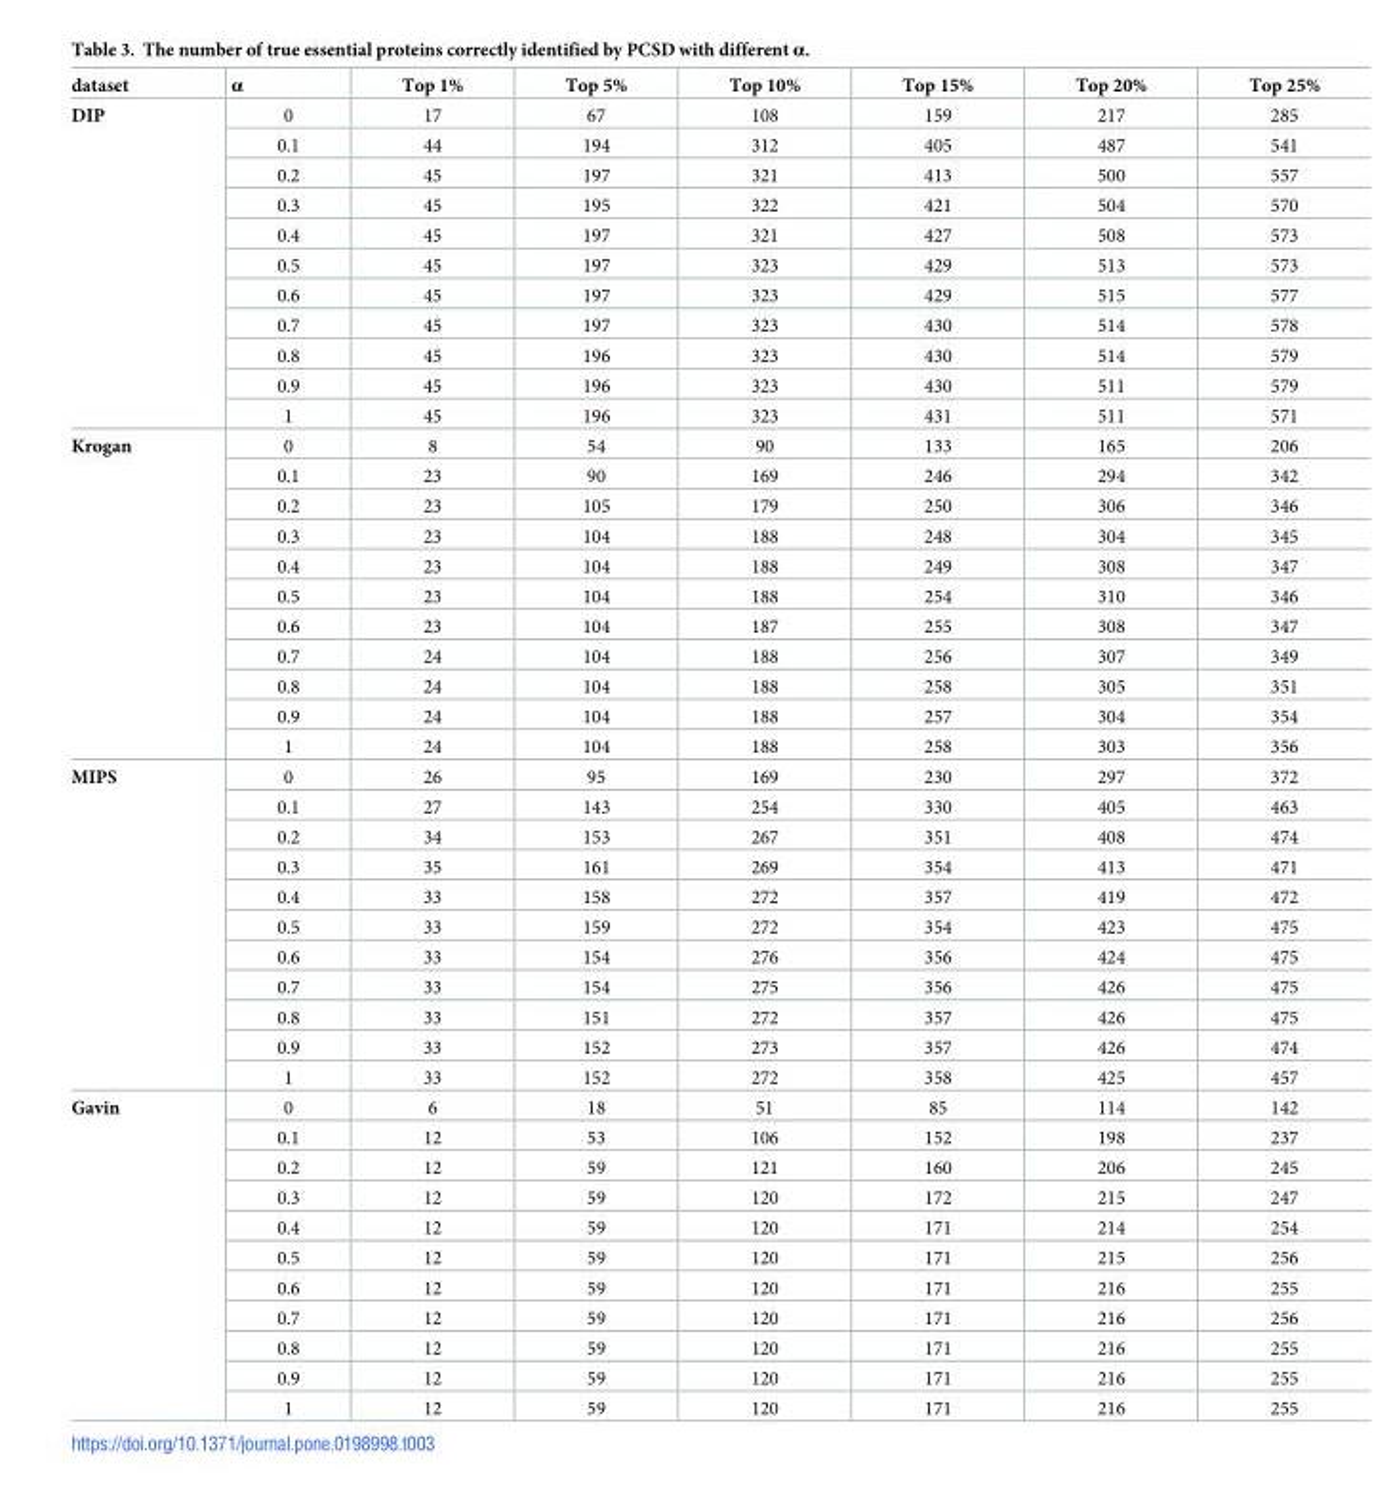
<table><thead><tr><td>dataset</td><td>α</td><td>Top 1%</td><td>Top 5%</td><td>Top 10%</td><td>Top 15%</td><td>Top 20%</td><td>Top 25%</td></tr></thead><tbody><tr><td rowspan="11">DIP</td><td>0</td><td>17</td><td>67</td><td>108</td><td>159</td><td>217</td><td>285</td></tr><tr><td>0.1</td><td>44</td><td>194</td><td>312</td><td>405</td><td>487</td><td>541</td></tr><tr><td>0.2</td><td>45</td><td>197</td><td>321</td><td>413</td><td>500</td><td>557</td></tr><tr><td>0.3</td><td>45</td><td>195</td><td>322</td><td>421</td><td>504</td><td>570</td></tr><tr><td>0.4</td><td>45</td><td>197</td><td>321</td><td>427</td><td>508</td><td>573</td></tr><tr><td>0.5</td><td>45</td><td>197</td><td>323</td><td>429</td><td>513</td><td>573</td></tr><tr><td>0.6</td><td>45</td><td>197</td><td>323</td><td>429</td><td>515</td><td>577</td></tr><tr><td>0.7</td><td>45</td><td>197</td><td>323</td><td>430</td><td>514</td><td>578</td></tr><tr><td>0.8</td><td>45</td><td>196</td><td>323</td><td>430</td><td>514</td><td>579</td></tr><tr><td>0.9</td><td>45</td><td>196</td><td>323</td><td>430</td><td>511</td><td>579</td></tr><tr><td>1</td><td>45</td><td>196</td><td>323</td><td>431</td><td>511</td><td>571</td></tr><tr><td rowspan="11">Krogan</td><td>0</td><td>8</td><td>54</td><td>90</td><td>133</td><td>165</td><td>206</td></tr><tr><td>0.1</td><td>23</td><td>90</td><td>169</td><td>246</td><td>294</td><td>342</td></tr><tr><td>0.2</td><td>23</td><td>105</td><td>179</td><td>250</td><td>306</td><td>346</td></tr><tr><td>0.3</td><td>23</td><td>104</td><td>188</td><td>248</td><td>304</td><td>345</td></tr><tr><td>0.4</td><td>23</td><td>104</td><td>188</td><td>249</td><td>308</td><td>347</td></tr><tr><td>0.5</td><td>23</td><td>104</td><td>188</td><td>254</td><td>310</td><td>346</td></tr><tr><td>0.6</td><td>23</td><td>104</td><td>187</td><td>255</td><td>308</td><td>347</td></tr><tr><td>0.7</td><td>24</td><td>104</td><td>188</td><td>256</td><td>307</td><td>349</td></tr><tr><td>0.8</td><td>24</td><td>104</td><td>188</td><td>258</td><td>305</td><td>351</td></tr><tr><td>0.9</td><td>24</td><td>104</td><td>188</td><td>257</td><td>304</td><td>354</td></tr><tr><td>1</td><td>24</td><td>104</td><td>188</td><td>258</td><td>303</td><td>356</td></tr><tr><td rowspan="11">MIPS</td><td>0</td><td>26</td><td>95</td><td>169</td><td>230</td><td>297</td><td>372</td></tr><tr><td>0.1</td><td>27</td><td>143</td><td>254</td><td>330</td><td>405</td><td>463</td></tr><tr><td>0.2</td><td>34</td><td>153</td><td>267</td><td>351</td><td>408</td><td>474</td></tr><tr><td>0.3</td><td>35</td><td>161</td><td>269</td><td>354</td><td>413</td><td>471</td></tr><tr><td>0.4</td><td>33</td><td>158</td><td>272</td><td>357</td><td>419</td><td>472</td></tr><tr><td>0.5</td><td>33</td><td>159</td><td>272</td><td>354</td><td>423</td><td>475</td></tr><tr><td>0.6</td><td>33</td><td>154</td><td>276</td><td>356</td><td>424</td><td>475</td></tr><tr><td>0.7</td><td>33</td><td>154</td><td>275</td><td>356</td><td>426</td><td>475</td></tr><tr><td>0.8</td><td>33</td><td>151</td><td>272</td><td>357</td><td>426</td><td>475</td></tr><tr><td>0.9</td><td>33</td><td>152</td><td>273</td><td>357</td><td>426</td><td>474</td></tr><tr><td>1</td><td>33</td><td>152</td><td>272</td><td>358</td><td>425</td><td>457</td></tr><tr><td rowspan="11">Gavin</td><td>0</td><td>6</td><td>18</td><td>51</td><td>85</td><td>114</td><td>142</td></tr><tr><td>0.1</td><td>12</td><td>53</td><td>106</td><td>152</td><td>198</td><td>237</td></tr><tr><td>0.2</td><td>12</td><td>59</td><td>121</td><td>160</td><td>206</td><td>245</td></tr><tr><td>0.3</td><td>12</td><td>59</td><td>120</td><td>172</td><td>215</td><td>247</td></tr><tr><td>0.4</td><td>12</td><td>59</td><td>120</td><td>171</td><td>214</td><td>254</td></tr><tr><td>0.5</td><td>12</td><td>59</td><td>120</td><td>171</td><td>215</td><td>256</td></tr><tr><td>0.6</td><td>12</td><td>59</td><td>120</td><td>171</td><td>216</td><td>255</td></tr><tr><td>0.7</td><td>12</td><td>59</td><td>120</td><td>171</td><td>216</td><td>256</td></tr><tr><td>0.8</td><td>12</td><td>59</td><td>120</td><td>171</td><td>216</td><td>255</td></tr><tr><td>0.9</td><td>12</td><td>59</td><td>120</td><td>171</td><td>216</td><td>255</td></tr><tr><td>1</td><td>12</td><td>59</td><td>120</td><td>171</td><td>216</td><td>255</td></tr></tbody></table>